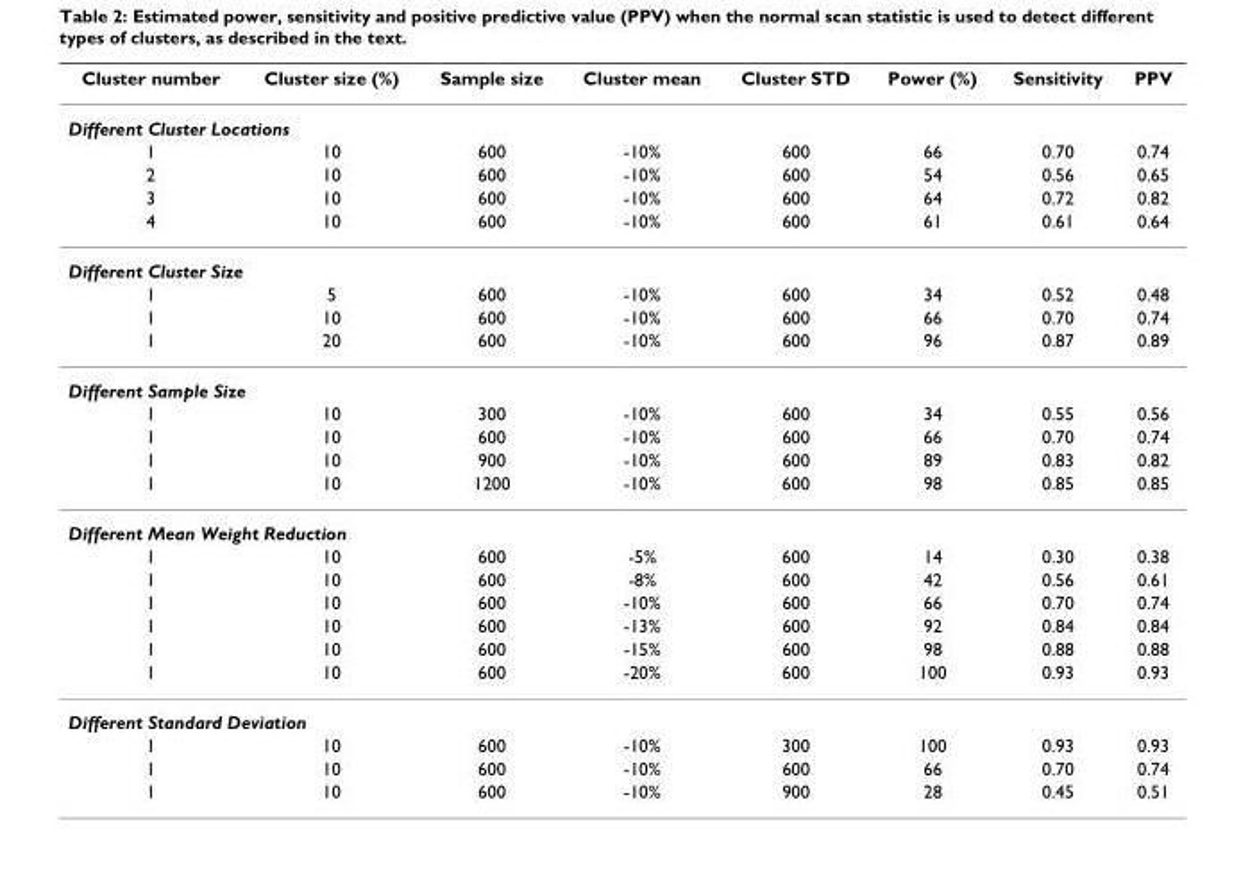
<table><thead><tr><td>Cluster number</td><td>Cluster size (%)</td><td>Sample size</td><td>Cluster mean</td><td>Cluster STD</td><td>Power (%)</td><td>Sensitivity</td><td>PPV</td></tr></thead><tbody><tr><td colspan="8">Different Cluster Locations</td></tr><tr><td>1</td><td>10</td><td>600</td><td>-10%</td><td>600</td><td>66</td><td>0.70</td><td>0.74</td></tr><tr><td>2</td><td>10</td><td>600</td><td>-10%</td><td>600</td><td>54</td><td>0.56</td><td>0.65</td></tr><tr><td>3</td><td>10</td><td>600</td><td>-10%</td><td>600</td><td>64</td><td>0.72</td><td>0.82</td></tr><tr><td>4</td><td>10</td><td>600</td><td>-10%</td><td>600</td><td>61</td><td>0.61</td><td>0.64</td></tr><tr><td colspan="8">Different Cluster Size</td></tr><tr><td>1</td><td>5</td><td>600</td><td>-10%</td><td>600</td><td>34</td><td>0.52</td><td>0.48</td></tr><tr><td>1</td><td>10</td><td>600</td><td>-10%</td><td>600</td><td>66</td><td>0.70</td><td>0.74</td></tr><tr><td>1</td><td>20</td><td>600</td><td>-10%</td><td>600</td><td>96</td><td>0.87</td><td>0.89</td></tr><tr><td colspan="8">Different Sample Size</td></tr><tr><td>1</td><td>10</td><td>300</td><td>-10%</td><td>600</td><td>34</td><td>0.55</td><td>0.56</td></tr><tr><td>1</td><td>10</td><td>600</td><td>-10%</td><td>600</td><td>66</td><td>0.70</td><td>0.74</td></tr><tr><td>1</td><td>10</td><td>900</td><td>-10%</td><td>600</td><td>89</td><td>0.83</td><td>0.82</td></tr><tr><td>1</td><td>10</td><td>1200</td><td>-10%</td><td>600</td><td>98</td><td>0.85</td><td>0.85</td></tr><tr><td colspan="8">Different Mean Weight Reduction</td></tr><tr><td>1</td><td>10</td><td>600</td><td>-5%</td><td>600</td><td>14</td><td>0.30</td><td>0.38</td></tr><tr><td>1</td><td>10</td><td>600</td><td>-8%</td><td>600</td><td>42</td><td>0.56</td><td>0.61</td></tr><tr><td>1</td><td>10</td><td>600</td><td>-10%</td><td>600</td><td>66</td><td>0.70</td><td>0.74</td></tr><tr><td>1</td><td>10</td><td>600</td><td>-13%</td><td>600</td><td>92</td><td>0.84</td><td>0.84</td></tr><tr><td>1</td><td>10</td><td>600</td><td>-15%</td><td>600</td><td>98</td><td>0.88</td><td>0.88</td></tr><tr><td>1</td><td>10</td><td>600</td><td>-20%</td><td>600</td><td>100</td><td>0.93</td><td>0.93</td></tr><tr><td colspan="8">Different Standard Deviation</td></tr><tr><td>1</td><td>10</td><td>600</td><td>-10%</td><td>300</td><td>100</td><td>0.93</td><td>0.93</td></tr><tr><td>1</td><td>10</td><td>600</td><td>-10%</td><td>600</td><td>66</td><td>0.70</td><td>0.74</td></tr><tr><td>1</td><td>10</td><td>600</td><td>-10%</td><td>900</td><td>28</td><td>0.45</td><td>0.51</td></tr></tbody></table>